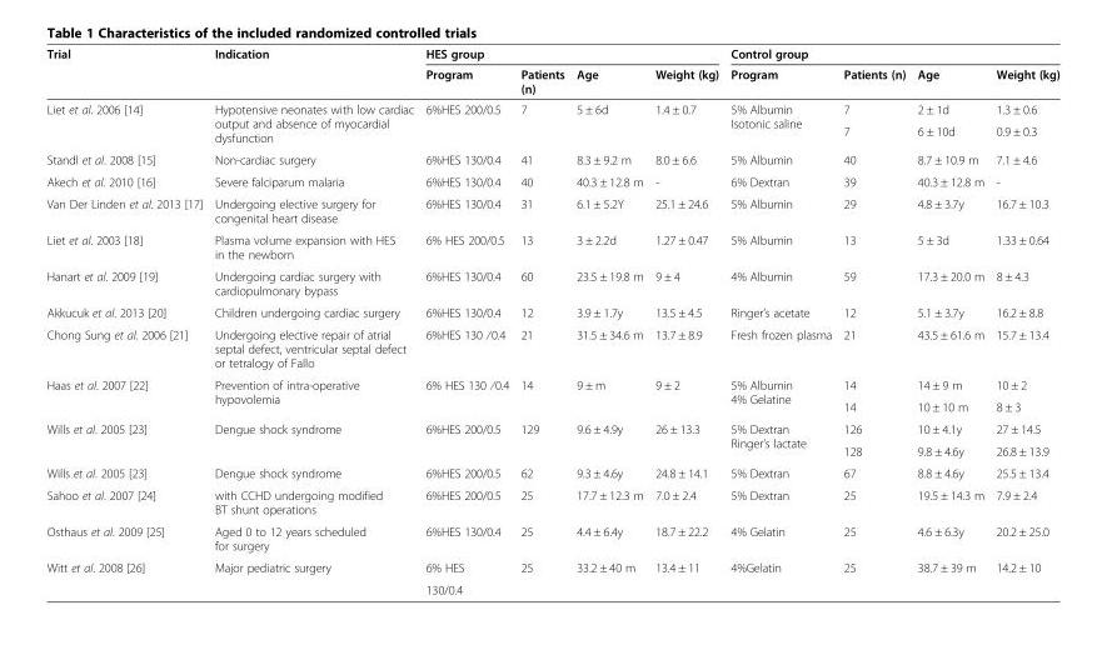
<table><thead><tr><td rowspan="2">Trial</td><td rowspan="2">Indication</td><td colspan="4">HES group</td><td colspan="4">Control group</td></tr><tr><td>Program</td><td>Patients (n)</td><td>Age</td><td>Weight (kg)</td><td>Program</td><td>Patients (n)</td><td>Age</td><td>Weight (kg)</td></tr></thead><tbody><tr><td rowspan="2">Liet et al. 2006 [14]</td><td rowspan="2">Hypotensive neonates with low cardiac output and absence of myocardial dysfunction</td><td rowspan="2">6%HES 200/0.5</td><td rowspan="2">7</td><td rowspan="2">5 ± 6d</td><td rowspan="2">1.4 ± 0.7</td><td rowspan="2">5% Albumin Isotonic saline</td><td>7</td><td>2 ± 1d</td><td>1.3 ± 0.6</td></tr><tr><td>7</td><td>6 ± 10d</td><td>0.9 ± 0.3</td></tr><tr><td>Standl et al. 2008 [15]</td><td>Non-cardiac surgery</td><td>6%HES 130/0.4</td><td>41</td><td>8.3 ± 9.2 m</td><td>8.0 ± 6.6</td><td>5% Albumin</td><td>40</td><td>8.7 ± 10.9 m</td><td>7.1 ± 4.6</td></tr><tr><td>Akech et al. 2010 [16]</td><td>Severe falciparum malaria</td><td>6%HES 130/0.4</td><td>40</td><td>40.3 ± 12.8 m</td><td>-</td><td>6% Dextran</td><td>39</td><td>40.3 ± 12.8 m</td><td>-</td></tr><tr><td>Van Der Linden et al. 2013 [17]</td><td>Undergoing elective surgery for congenital heart disease</td><td>6%HES 130/0.4</td><td>31</td><td>6.1 ± 5.2Y</td><td>25.1 ± 24.6</td><td>5% Albumin</td><td>29</td><td>4.8 ± 3.7y</td><td>16.7 ± 10.3</td></tr><tr><td>Liet et al. 2003 [18]</td><td>Plasma volume expansion with HES in the newborn</td><td>6% HES 200/0.5</td><td>13</td><td>3 ± 2.2d</td><td>1.27 ± 0.47</td><td>5% Albumin</td><td>13</td><td>5 ± 3d</td><td>1.33 ± 0.64</td></tr><tr><td>Hanart et al. 2009 [19]</td><td>Undergoing cardiac surgery with cardiopulmonary bypass</td><td>6%HES 130/0.4</td><td>60</td><td>23.5 ± 19.8 m</td><td>9 ± 4</td><td>4% Albumin</td><td>59</td><td>17.3 ± 20.0 m</td><td>8 ± 4.3</td></tr><tr><td>Akkucuk et al. 2013 [20]</td><td>Children undergoing cardiac surgery</td><td>6%HES 130/0.4</td><td>12</td><td>3.9 ± 1.7y</td><td>13.5 ± 4.5</td><td>Ringer’s acetate</td><td>12</td><td>5.1 ± 3.7y</td><td>16.2 ± 8.8</td></tr><tr><td>Chong Sung et al. 2006 [21]</td><td>Undergoing elective repair of atrial septal defect, ventricular septal defect or tetralogy of Fallo</td><td>6%HES 130 ⁄0.4</td><td>21</td><td>31.5 ± 34.6 m</td><td>13.7 ± 8.9</td><td>Fresh frozen plasma</td><td>21</td><td>43.5 ± 61.6 m</td><td>15.7 ± 13.4</td></tr><tr><td rowspan="2">Haas et al. 2007 [22]</td><td rowspan="2">Prevention of intra-operative hypovolemia</td><td rowspan="2">6% HES 130 ⁄0.4</td><td rowspan="2">14</td><td rowspan="2">9 ± m</td><td rowspan="2">9 ± 2</td><td rowspan="2">5% Albumin 4% Gelatine</td><td>14</td><td>14 ± 9 m</td><td>10 ± 2</td></tr><tr><td>14</td><td>10 ± 10 m</td><td>8 ± 3</td></tr><tr><td rowspan="2">Wills et al. 2005 [23]</td><td rowspan="2">Dengue shock syndrome</td><td rowspan="2">6%HES 200/0.5</td><td rowspan="2">129</td><td rowspan="2">9.6 ± 4.9y</td><td rowspan="2">26 ± 13.3</td><td rowspan="2">5% Dextran Ringer’s lactate</td><td>126</td><td>10 ± 4.1y</td><td>27 ± 14.5</td></tr><tr><td>128</td><td>9.8 ± 4.6y</td><td>26.8 ± 13.9</td></tr><tr><td>Wills et al. 2005 [23]</td><td>Dengue shock syndrome</td><td>6%HES 200/0.5</td><td>62</td><td>9.3 ± 4.6y</td><td>24.8 ± 14.1</td><td>5% Dextran</td><td>67</td><td>8.8 ± 4.6y</td><td>25.5 ± 13.4</td></tr><tr><td>Sahoo et al. 2007 [24]</td><td>with CCHD undergoing modified BT shunt operations</td><td>6%HES 200/0.5</td><td>25</td><td>17.7 ± 12.3 m</td><td>7.0 ± 2.4</td><td>5% Dextran</td><td>25</td><td>19.5 ± 14.3 m</td><td>7.9 ± 2.4</td></tr><tr><td>Osthaus et al. 2009 [25]</td><td>Aged 0 to 12 years scheduled for surgery</td><td>6%HES 130/0.4</td><td>25</td><td>4.4 ± 6.4y</td><td>18.7 ± 22.2</td><td>4% Gelatin</td><td>25</td><td>4.6 ± 6.3y</td><td>20.2 ± 25.0</td></tr><tr><td rowspan="2">Witt et al. 2008 [26]</td><td rowspan="2">Major pediatric surgery</td><td>6% HES</td><td rowspan="2">25</td><td rowspan="2">33.2 ± 40 m</td><td rowspan="2">13.4 ± 11</td><td rowspan="2">4%Gelatin</td><td rowspan="2">25</td><td rowspan="2">38.7 ± 39 m</td><td rowspan="2">14.2 ± 10</td></tr><tr><td>130/0.4</td></tr></tbody></table>